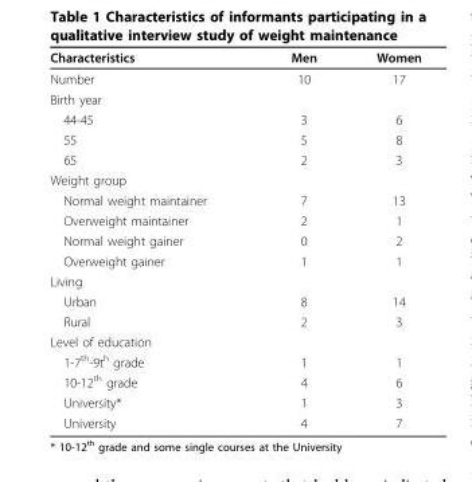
<table><thead><tr><td>Characteristics</td><td>Men</td><td>Women</td></tr></thead><tbody><tr><td>Number</td><td>10</td><td>17</td></tr><tr><td colspan="3">Birth year</td></tr><tr><td>44-45</td><td>3</td><td>6</td></tr><tr><td>55</td><td>5</td><td>8</td></tr><tr><td>65</td><td>2</td><td>3</td></tr><tr><td colspan="3">Weight group</td></tr><tr><td>Normal weight maintainer</td><td>7</td><td>13</td></tr><tr><td>Overweight maintainer</td><td>2</td><td>1</td></tr><tr><td>Normal weight gainer</td><td>0</td><td>2</td></tr><tr><td>Overweight gainer</td><td>1</td><td>1</td></tr><tr><td colspan="3">Living</td></tr><tr><td>Urban</td><td>8</td><td>14</td></tr><tr><td>Rural</td><td>2</td><td>3</td></tr><tr><td colspan="3">Level of education</td></tr><tr><td>1-7<sup>th</sup>-9t<sup>h</sup> grade</td><td>1</td><td>1</td></tr><tr><td>10-12<sup>th</sup> grade</td><td>4</td><td>6</td></tr><tr><td>University*</td><td>1</td><td>3</td></tr><tr><td>University</td><td>4</td><td>7</td></tr></tbody></table>